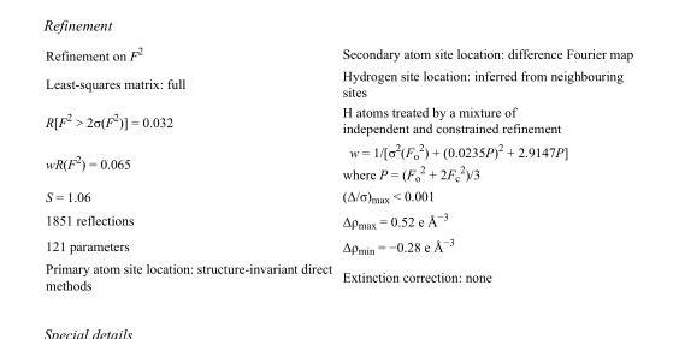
<table><tbody><tr><td>Refinement on F<sup>2</sup></td><td>Secondary atom site location: difference Fourier map</td></tr><tr><td>Least-squares matrix: full</td><td>Hydrogen site location: inferred from neighbouring sites</td></tr><tr><td>R[F<sup>2</sup> &gt; 2σ(F<sup>2</sup>)] = 0.032</td><td>H atoms treated by a mixture of independent and constrained refinement</td></tr><tr><td>wR(F<sup>2</sup>) = 0.065</td><td>w = 1/[σ<sup>2</sup>(F<sub>o</sub> <sup>2</sup>) + (0.0235P)<sup>2</sup> + 2.9147P] where P = (F<sub>o</sub> <sup>2</sup> + 2F<sub>c</sub> <sup>2</sup>)/3</td></tr><tr><td>S = 1.06</td><td>(Δ/σ)<sub>max</sub> &lt; 0.001</td></tr><tr><td>1851 reflections</td><td>Δρ<sub>max</sub> = 0.52 e Å<sup>−3</sup></td></tr><tr><td>121 parameters</td><td>Δρ<sub>min</sub> = −0.28 e Å<sup>−3</sup></td></tr><tr><td>Primary atom site location: structure-invariant direct methods</td><td>Extinction correction: none</td></tr></tbody></table>